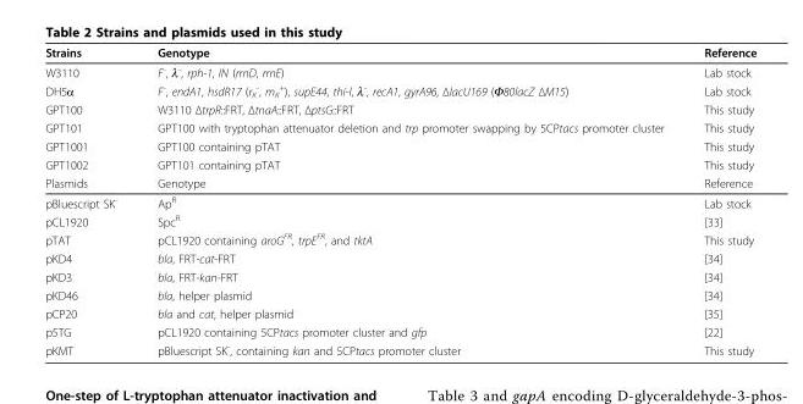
<table><thead><tr><td>Strains</td><td>Genotype</td><td>Reference</td></tr></thead><tbody><tr><td>W3110</td><td>F<sup>-</sup>, λ<sup>-</sup>, rph-1, IN (rrnD, rrnE)</td><td>Lab stock</td></tr><tr><td>DH5α</td><td>F<sup>-</sup>, endA1, hsdR17 (r<sub>K</sub> <sup>-</sup>, m<sub>K</sub> <sup>+</sup>), supE44, thi-l, λ<sup>-</sup>, recA1, gyrA96, ΔlacU169 (Φ80lacZ ΔM15)</td><td>Lab stock</td></tr><tr><td>GPT100</td><td>W3110 ΔtrpR::FRT, ΔtnaA::FRT, ΔptsG::FRT</td><td>This study</td></tr><tr><td>GPT101</td><td>GPT100 with tryptophan attenuator deletion and trp promoter swapping by 5CPtacs promoter cluster</td><td>This study</td></tr><tr><td>GPT1001</td><td>GPT100 containing pTAT</td><td>This study</td></tr><tr><td>GPT1002</td><td>GPT101 containing pTAT</td><td>This study</td></tr><tr><td>Plasmids</td><td>Genotype</td><td>Reference</td></tr><tr><td>pBluescript SK<sup>-</sup></td><td>Ap<sup>R</sup></td><td>Lab stock</td></tr><tr><td>pCL1920</td><td>Spc<sup>R</sup></td><td>[33]</td></tr><tr><td>pTAT</td><td>pCL1920 containing aroG<sup>FR</sup>, trpE<sup>FR</sup>, and tktA</td><td>This study</td></tr><tr><td>pKD4</td><td>bla, FRT-cat-FRT</td><td>[34]</td></tr><tr><td>pKD3</td><td>bla, FRT-kan-FRT</td><td>[34]</td></tr><tr><td>pKD46</td><td>bla, helper plasmid</td><td>[34]</td></tr><tr><td>pCP20</td><td>bla and cat, helper plasmid</td><td>[35]</td></tr><tr><td>p5TG</td><td>pCL1920 containing 5CPtacs promoter cluster and gfp</td><td>[22]</td></tr><tr><td>pKMT</td><td>pBluescript SK<sup>-</sup>, containing kan and 5CPtacs promoter cluster</td><td>This study</td></tr></tbody></table>